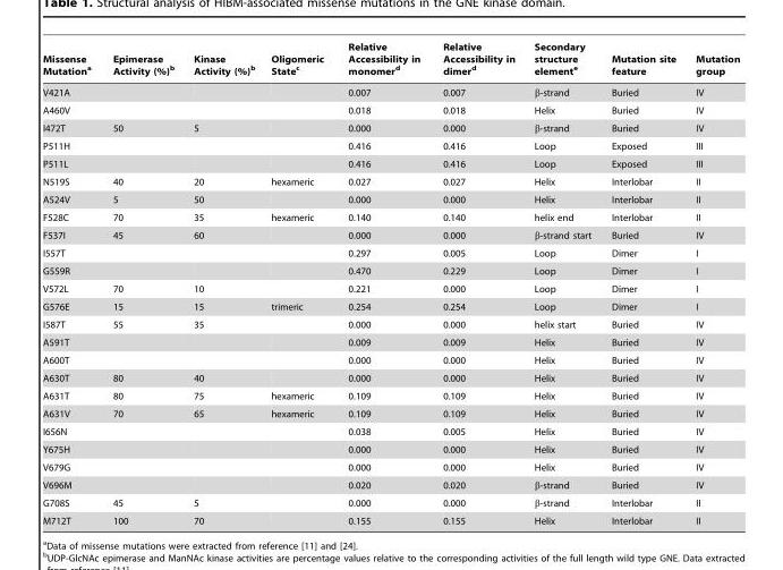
<table><thead><tr><td>Missense Mutation<sup>a</sup></td><td>Epimerase Activity (%)<sup>b</sup></td><td>Kinase Activity (%)<sup>b</sup></td><td>Oligomeric State<sup>c</sup></td><td>Relative Accessibility in monomer<sup>d</sup></td><td>Relative Accessibility in dimer<sup>d</sup></td><td>Secondary structure element<sup>e</sup></td><td>Mutation site feature</td><td>Mutation group</td></tr></thead><tbody><tr><td>V421A</td><td></td><td></td><td></td><td>0.007</td><td>0.007</td><td>β-strand</td><td>Buried</td><td>IV</td></tr><tr><td>A460V</td><td></td><td></td><td></td><td>0.018</td><td>0.018</td><td>Helix</td><td>Buried</td><td>IV</td></tr><tr><td>I472T</td><td>50</td><td>5</td><td></td><td>0.000</td><td>0.000</td><td>β-strand</td><td>Buried</td><td>IV</td></tr><tr><td>P511H</td><td></td><td></td><td></td><td>0.416</td><td>0.416</td><td>Loop</td><td>Exposed</td><td>III</td></tr><tr><td>P511L</td><td></td><td></td><td></td><td>0.416</td><td>0.416</td><td>Loop</td><td>Exposed</td><td>III</td></tr><tr><td>N519S</td><td>40</td><td>20</td><td>hexameric</td><td>0.027</td><td>0.027</td><td>Helix</td><td>Interlobar</td><td>II</td></tr><tr><td>A524V</td><td>5</td><td>50</td><td></td><td>0.000</td><td>0.000</td><td>Helix</td><td>Interlobar</td><td>II</td></tr><tr><td>F528C</td><td>70</td><td>35</td><td>hexameric</td><td>0.140</td><td>0.140</td><td>helix end</td><td>Interlobar</td><td>II</td></tr><tr><td>F537I</td><td>45</td><td>60</td><td></td><td>0.000</td><td>0.000</td><td>β-strand start</td><td>Buried</td><td>IV</td></tr><tr><td>I557T</td><td></td><td></td><td></td><td>0.297</td><td>0.005</td><td>Loop</td><td>Dimer</td><td>I</td></tr><tr><td>G559R</td><td></td><td></td><td></td><td>0.470</td><td>0.229</td><td>Loop</td><td>Dimer</td><td>I</td></tr><tr><td>V572L</td><td>70</td><td>10</td><td></td><td>0.221</td><td>0.000</td><td>Loop</td><td>Dimer</td><td>I</td></tr><tr><td>G576E</td><td>15</td><td>15</td><td>trimeric</td><td>0.254</td><td>0.254</td><td>Loop</td><td>Dimer</td><td>I</td></tr><tr><td>I587T</td><td>55</td><td>35</td><td></td><td>0.000</td><td>0.000</td><td>helix start</td><td>Buried</td><td>IV</td></tr><tr><td>A591T</td><td></td><td></td><td></td><td>0.009</td><td>0.009</td><td>Helix</td><td>Buried</td><td>IV</td></tr><tr><td>A600T</td><td></td><td></td><td></td><td>0.000</td><td>0.000</td><td>Helix</td><td>Buried</td><td>IV</td></tr><tr><td>A630T</td><td>80</td><td>40</td><td></td><td>0.000</td><td>0.000</td><td>Helix</td><td>Buried</td><td>IV</td></tr><tr><td>A631T</td><td>80</td><td>75</td><td>hexameric</td><td>0.109</td><td>0.109</td><td>Helix</td><td>Buried</td><td>IV</td></tr><tr><td>A631V</td><td>70</td><td>65</td><td>hexameric</td><td>0.109</td><td>0.109</td><td>Helix</td><td>Buried</td><td>IV</td></tr><tr><td>I656N</td><td></td><td></td><td></td><td>0.038</td><td>0.005</td><td>Helix</td><td>Buried</td><td>IV</td></tr><tr><td>Y675H</td><td></td><td></td><td></td><td>0.000</td><td>0.000</td><td>Helix</td><td>Buried</td><td>IV</td></tr><tr><td>V679G</td><td></td><td></td><td></td><td>0.000</td><td>0.000</td><td>Helix</td><td>Buried</td><td>IV</td></tr><tr><td>V696M</td><td></td><td></td><td></td><td>0.020</td><td>0.020</td><td>β-strand</td><td>Buried</td><td>IV</td></tr><tr><td>G708S</td><td>45</td><td>5</td><td></td><td>0.000</td><td>0.000</td><td>β-strand</td><td>Interlobar</td><td>II</td></tr><tr><td>M712T</td><td>100</td><td>70</td><td></td><td>0.155</td><td>0.155</td><td>Helix</td><td>Interlobar</td><td>II</td></tr></tbody></table>